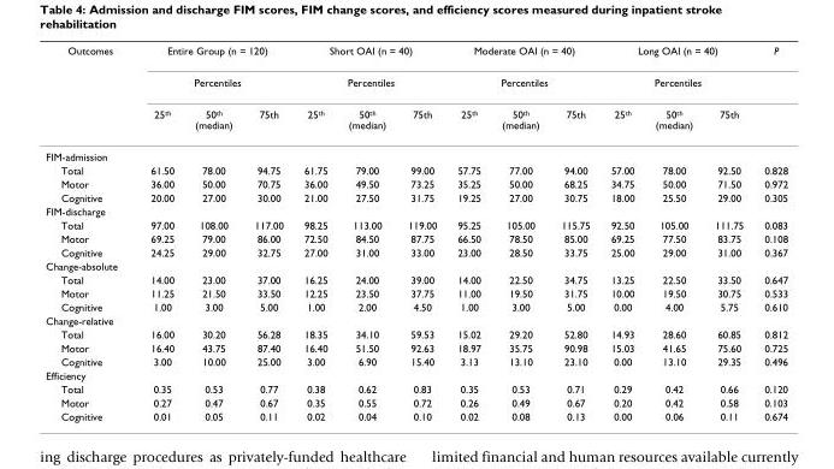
<table><thead><tr><td rowspan="3">Outcomes</td><td rowspan="2" colspan="3">Entire Group (n = 120) Percentiles</td><td rowspan="2" colspan="3">Short OAI (n = 40) Percentiles</td><td rowspan="2" colspan="3">Moderate OAI (n = 40) Percentiles</td><td rowspan="2" colspan="3">Long OAI (n = 40) Percentiles</td><td rowspan="3">P</td></tr><tr></tr><tr><td>25th</td><td>50th (median)</td><td>75th</td><td>25th</td><td>50th (median)</td><td>75th</td><td>25th</td><td>50th (median)</td><td>75th</td><td>25th</td><td>50th (median)</td><td>75th</td></tr></thead><tbody><tr><td colspan="14">FIM-admission</td></tr><tr><td>Total</td><td>61.50</td><td>78.00</td><td>94.75</td><td>61.75</td><td>79.00</td><td>99.00</td><td>57.75</td><td>77.00</td><td>94.00</td><td>57.00</td><td>78.00</td><td>92.50</td><td>0.828</td></tr><tr><td>Motor</td><td>36.00</td><td>50.00</td><td>70.75</td><td>36.00</td><td>49.50</td><td>73.25</td><td>35.25</td><td>50.00</td><td>68.25</td><td>34.75</td><td>50.00</td><td>71.50</td><td>0.972</td></tr><tr><td>Cognitive</td><td>20.00</td><td>27.00</td><td>30.00</td><td>21.00</td><td>27.50</td><td>31.75</td><td>19.25</td><td>27.00</td><td>30.75</td><td>18.00</td><td>25.50</td><td>29.00</td><td>0.305</td></tr><tr><td colspan="14">FIM-discharge</td></tr><tr><td>Total</td><td>97.00</td><td>108.00</td><td>117.00</td><td>98.25</td><td>113.00</td><td>119.00</td><td>95.25</td><td>105.00</td><td>115.75</td><td>92.50</td><td>105.00</td><td>111.75</td><td>0.083</td></tr><tr><td>Motor</td><td>69.25</td><td>79.00</td><td>86.00</td><td>72.50</td><td>84.50</td><td>87.75</td><td>66.50</td><td>78.50</td><td>85.00</td><td>69.25</td><td>77.50</td><td>83.75</td><td>0.108</td></tr><tr><td>Cognitive</td><td>24.25</td><td>29.00</td><td>32.75</td><td>27.00</td><td>31.00</td><td>33.00</td><td>23.00</td><td>28.50</td><td>33.75</td><td>25.00</td><td>29.00</td><td>31.00</td><td>0.367</td></tr><tr><td colspan="14">Change-absolute</td></tr><tr><td>Total</td><td>14.00</td><td>23.00</td><td>37.00</td><td>16.25</td><td>24.00</td><td>39.00</td><td>14.00</td><td>22.50</td><td>34.75</td><td>13.25</td><td>22.50</td><td>33.50</td><td>0.647</td></tr><tr><td>Motor</td><td>11.25</td><td>21.50</td><td>33.50</td><td>12.25</td><td>23.50</td><td>37.75</td><td>11.00</td><td>19.50</td><td>31.75</td><td>10.00</td><td>19.50</td><td>30.75</td><td>0.533</td></tr><tr><td>Cognitive</td><td>1.00</td><td>3.00</td><td>5.00</td><td>1.00</td><td>2.00</td><td>4.50</td><td>1.00</td><td>3.00</td><td>5.00</td><td>0.00</td><td>4.00</td><td>5.75</td><td>0.610</td></tr><tr><td colspan="14">Change-relative</td></tr><tr><td>Total</td><td>16.00</td><td>30.20</td><td>56.28</td><td>18.35</td><td>34.10</td><td>59.53</td><td>15.02</td><td>29.20</td><td>52.80</td><td>14.93</td><td>28.60</td><td>60.85</td><td>0.812</td></tr><tr><td>Motor</td><td>16.40</td><td>43.75</td><td>87.40</td><td>16.40</td><td>51.50</td><td>92.63</td><td>18.97</td><td>35.75</td><td>90.98</td><td>15.03</td><td>41.65</td><td>75.60</td><td>0.725</td></tr><tr><td>Cognitive</td><td>3.00</td><td>10.00</td><td>25.00</td><td>3.00</td><td>6.90</td><td>15.40</td><td>3.13</td><td>13.10</td><td>23.10</td><td>0.00</td><td>13.10</td><td>29.35</td><td>0.496</td></tr><tr><td colspan="14">Efficiency</td></tr><tr><td>Total</td><td>0.35</td><td>0.53</td><td>0.77</td><td>0.38</td><td>0.62</td><td>0.83</td><td>0.35</td><td>0.53</td><td>0.71</td><td>0.29</td><td>0.42</td><td>0.66</td><td>0.120</td></tr><tr><td>Motor</td><td>0.27</td><td>0.47</td><td>0.67</td><td>0.35</td><td>0.55</td><td>0.72</td><td>0.26</td><td>0.49</td><td>0.67</td><td>0.20</td><td>0.42</td><td>0.58</td><td>0.103</td></tr><tr><td>Cognitive</td><td>0.01</td><td>0.05</td><td>0.11</td><td>0.02</td><td>0.04</td><td>0.10</td><td>0.02</td><td>0.08</td><td>0.13</td><td>0.00</td><td>0.06</td><td>0.11</td><td>0.674</td></tr></tbody></table>